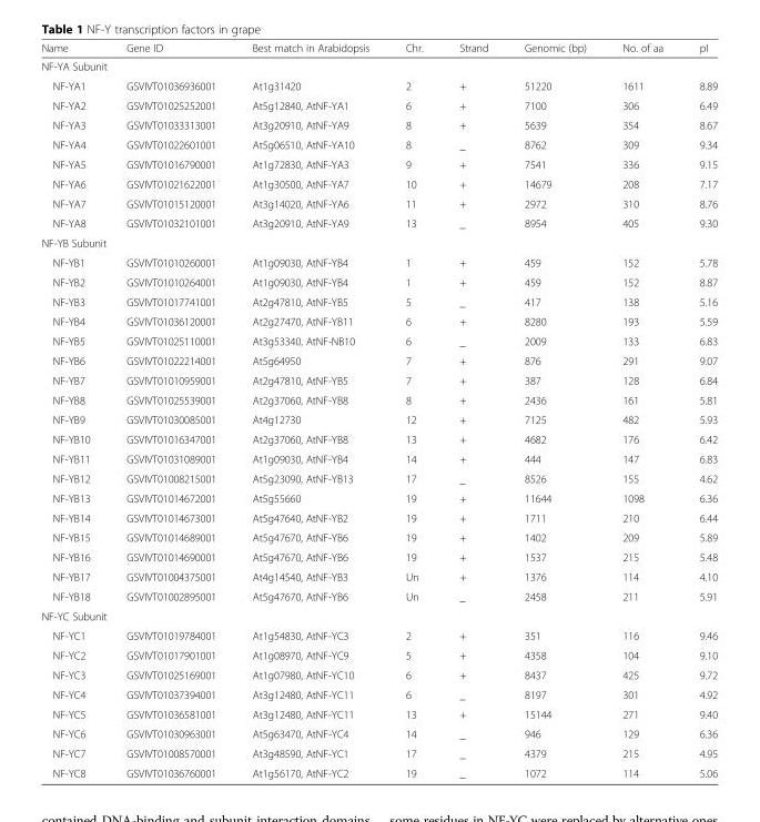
<table><thead><tr><td>Name</td><td>Gene ID</td><td>Best match in Arabidopsis</td><td>Chr.</td><td>Strand</td><td>Genomic (bp)</td><td>No. of aa</td><td>pI</td></tr></thead><tbody><tr><td colspan="8">NF-YA Subunit</td></tr><tr><td>NF-YA1</td><td>GSVIVT01036936001</td><td>At1g31420</td><td>2</td><td>+</td><td>51220</td><td>1611</td><td>8.89</td></tr><tr><td>NF-YA2</td><td>GSVIVT01025252001</td><td>At5g12840, AtNF-YA1</td><td>6</td><td>+</td><td>7100</td><td>306</td><td>6.49</td></tr><tr><td>NF-YA3</td><td>GSVIVT01033313001</td><td>At3g20910, AtNF-YA9</td><td>8</td><td>+</td><td>5639</td><td>354</td><td>8.67</td></tr><tr><td>NF-YA4</td><td>GSVIVT01022601001</td><td>At5g06510, AtNF-YA10</td><td>8</td><td>_</td><td>8762</td><td>309</td><td>9.34</td></tr><tr><td>NF-YA5</td><td>GSVIVT01016790001</td><td>At1g72830, AtNF-YA3</td><td>9</td><td>+</td><td>7541</td><td>336</td><td>9.15</td></tr><tr><td>NF-YA6</td><td>GSVIVT01021622001</td><td>At1g30500, AtNF-YA7</td><td>10</td><td>+</td><td>14679</td><td>208</td><td>7.17</td></tr><tr><td>NF-YA7</td><td>GSVIVT01015120001</td><td>At3g14020, AtNF-YA6</td><td>11</td><td>+</td><td>2972</td><td>310</td><td>8.76</td></tr><tr><td>NF-YA8</td><td>GSVIVT01032101001</td><td>At3g20910, AtNF-YA9</td><td>13</td><td>_</td><td>8954</td><td>405</td><td>9.30</td></tr><tr><td colspan="8">NF-YB Subunit</td></tr><tr><td>NF-YB1</td><td>GSVIVT01010260001</td><td>At1g09030, AtNF-YB4</td><td>1</td><td>+</td><td>459</td><td>152</td><td>5.78</td></tr><tr><td>NF-YB2</td><td>GSVIVT01010264001</td><td>At1g09030, AtNF-YB4</td><td>1</td><td>+</td><td>459</td><td>152</td><td>8.87</td></tr><tr><td>NF-YB3</td><td>GSVIVT01017741001</td><td>At2g47810, AtNF-YB5</td><td>5</td><td>_</td><td>417</td><td>138</td><td>5.16</td></tr><tr><td>NF-YB4</td><td>GSVIVT01036120001</td><td>At2g27470, AtNF-YB11</td><td>6</td><td>+</td><td>8280</td><td>193</td><td>5.59</td></tr><tr><td>NF-YB5</td><td>GSVIVT01025110001</td><td>At3g53340, AtNF-NB10</td><td>6</td><td>_</td><td>2009</td><td>133</td><td>6.83</td></tr><tr><td>NF-YB6</td><td>GSVIVT01022214001</td><td>At5g64950</td><td>7</td><td>+</td><td>876</td><td>291</td><td>9.07</td></tr><tr><td>NF-YB7</td><td>GSVIVT01010959001</td><td>At2g47810, AtNF-YB5</td><td>7</td><td>+</td><td>387</td><td>128</td><td>6.84</td></tr><tr><td>NF-YB8</td><td>GSVIVT01025539001</td><td>At2g37060, AtNF-YB8</td><td>8</td><td>+</td><td>2436</td><td>161</td><td>5.81</td></tr><tr><td>NF-YB9</td><td>GSVIVT01030085001</td><td>At4g12730</td><td>12</td><td>+</td><td>7125</td><td>482</td><td>5.93</td></tr><tr><td>NF-YB10</td><td>GSVIVT01016347001</td><td>At2g37060, AtNF-YB8</td><td>13</td><td>+</td><td>4682</td><td>176</td><td>6.42</td></tr><tr><td>NF-YB11</td><td>GSVIVT01031089001</td><td>At1g09030, AtNF-YB4</td><td>14</td><td>+</td><td>444</td><td>147</td><td>6.83</td></tr><tr><td>NF-YB12</td><td>GSVIVT01008215001</td><td>At5g23090, AtNF-YB13</td><td>17</td><td>_</td><td>8526</td><td>155</td><td>4.62</td></tr><tr><td>NF-YB13</td><td>GSVIVT01014672001</td><td>At5g55660</td><td>19</td><td>+</td><td>11644</td><td>1098</td><td>6.36</td></tr><tr><td>NF-YB14</td><td>GSVIVT01014673001</td><td>At5g47640, AtNF-YB2</td><td>19</td><td>+</td><td>1711</td><td>210</td><td>6.44</td></tr><tr><td>NF-YB15</td><td>GSVIVT01014689001</td><td>At5g47670, AtNF-YB6</td><td>19</td><td>+</td><td>1402</td><td>209</td><td>5.89</td></tr><tr><td>NF-YB16</td><td>GSVIVT01014690001</td><td>At5g47670, AtNF-YB6</td><td>19</td><td>+</td><td>1537</td><td>215</td><td>5.48</td></tr><tr><td>NF-YB17</td><td>GSVIVT01004375001</td><td>At4g14540, AtNF-YB3</td><td>Un</td><td>+</td><td>1376</td><td>114</td><td>4.10</td></tr><tr><td>NF-YB18</td><td>GSVIVT01002895001</td><td>At5g47670, AtNF-YB6</td><td>Un</td><td>_</td><td>2458</td><td>211</td><td>5.91</td></tr><tr><td colspan="8">NF-YC Subunit</td></tr><tr><td>NF-YC1</td><td>GSVIVT01019784001</td><td>At1g54830, AtNF-YC3</td><td>2</td><td>+</td><td>351</td><td>116</td><td>9.46</td></tr><tr><td>NF-YC2</td><td>GSVIVT01017901001</td><td>At1g08970, AtNF-YC9</td><td>5</td><td>+</td><td>4358</td><td>104</td><td>9.10</td></tr><tr><td>NF-YC3</td><td>GSVIVT01025169001</td><td>At1g07980, AtNF-YC10</td><td>6</td><td>+</td><td>8437</td><td>425</td><td>9.72</td></tr><tr><td>NF-YC4</td><td>GSVIVT01037394001</td><td>At3g12480, AtNF-YC11</td><td>6</td><td>_</td><td>8197</td><td>301</td><td>4.92</td></tr><tr><td>NF-YC5</td><td>GSVIVT01036581001</td><td>At3g12480, AtNF-YC11</td><td>13</td><td>+</td><td>15144</td><td>271</td><td>9.40</td></tr><tr><td>NF-YC6</td><td>GSVIVT01030963001</td><td>At5g63470, AtNF-YC4</td><td>14</td><td>_</td><td>946</td><td>129</td><td>6.36</td></tr><tr><td>NF-YC7</td><td>GSVIVT01008570001</td><td>At3g48590, AtNF-YC1</td><td>17</td><td>_</td><td>4379</td><td>215</td><td>4.95</td></tr><tr><td>NF-YC8</td><td>GSVIVT01036760001</td><td>At1g56170, AtNF-YC2</td><td>19</td><td>_</td><td>1072</td><td>114</td><td>5.06</td></tr></tbody></table>